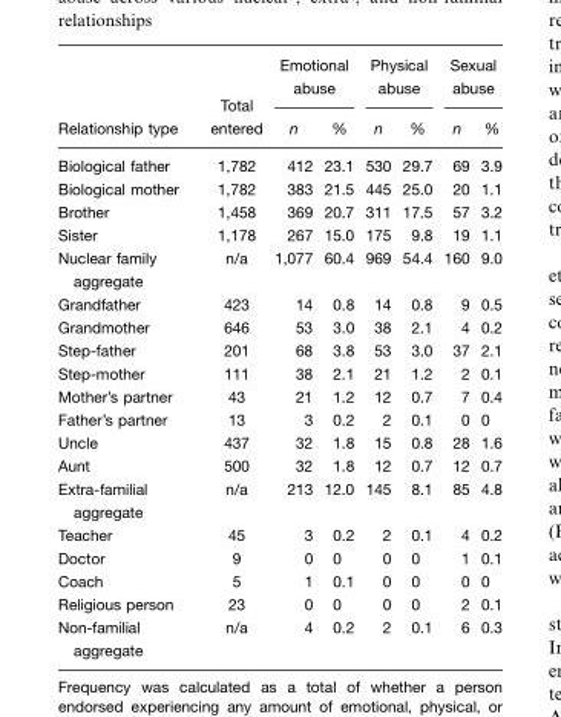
<table><thead><tr><td rowspan="2">Relationship type</td><td rowspan="2">Total entered</td><td colspan="2">Emotional abuse</td><td colspan="2">Physical abuse</td><td colspan="2">Sexual abuse</td></tr><tr><td>n</td><td>%</td><td>n</td><td>%</td><td>n</td><td>%</td></tr></thead><tbody><tr><td>Biological father</td><td>1,782</td><td>412</td><td>23.1</td><td>530</td><td>29.7</td><td>69</td><td>3.9</td></tr><tr><td>Biological mother</td><td>1,782</td><td>383</td><td>21.5</td><td>445</td><td>25.0</td><td>20</td><td>1.1</td></tr><tr><td>Brother</td><td>1,458</td><td>369</td><td>20.7</td><td>311</td><td>17.5</td><td>57</td><td>3.2</td></tr><tr><td>Sister</td><td>1,178</td><td>267</td><td>15.0</td><td>175</td><td>9.8</td><td>19</td><td>1.1</td></tr><tr><td>Nuclear family aggregate</td><td>n/a</td><td>1,077</td><td>60.4</td><td>969</td><td>54.4</td><td>160</td><td>9.0</td></tr><tr><td>Grandfather</td><td>423</td><td>14</td><td>0.8</td><td>14</td><td>0.8</td><td>9</td><td>0.5</td></tr><tr><td>Grandmother</td><td>646</td><td>53</td><td>3.0</td><td>38</td><td>2.1</td><td>4</td><td>0.2</td></tr><tr><td>Step-father</td><td>201</td><td>68</td><td>3.8</td><td>53</td><td>3.0</td><td>37</td><td>2.1</td></tr><tr><td>Step-mother</td><td>111</td><td>38</td><td>2.1</td><td>21</td><td>1.2</td><td>2</td><td>0.1</td></tr><tr><td>Mother’s partner</td><td>43</td><td>21</td><td>1.2</td><td>12</td><td>0.7</td><td>7</td><td>0.4</td></tr><tr><td>Father’s partner</td><td>13</td><td>3</td><td>0.2</td><td>2</td><td>0.1</td><td>0</td><td>0</td></tr><tr><td>Uncle</td><td>437</td><td>32</td><td>1.8</td><td>15</td><td>0.8</td><td>28</td><td>1.6</td></tr><tr><td>Aunt</td><td>500</td><td>32</td><td>1.8</td><td>12</td><td>0.7</td><td>12</td><td>0.7</td></tr><tr><td>Extra-familial aggregate</td><td>n/a</td><td>213</td><td>12.0</td><td>145</td><td>8.1</td><td>85</td><td>4.8</td></tr><tr><td>Teacher</td><td>45</td><td>3</td><td>0.2</td><td>2</td><td>0.1</td><td>4</td><td>0.2</td></tr><tr><td>Doctor</td><td>9</td><td>0</td><td>0</td><td>0</td><td>0</td><td>1</td><td>0.1</td></tr><tr><td>Coach</td><td>5</td><td>1</td><td>0.1</td><td>0</td><td>0</td><td>0</td><td>0</td></tr><tr><td>Religious person</td><td>23</td><td>0</td><td>0</td><td>0</td><td>0</td><td>2</td><td>0.1</td></tr><tr><td>Non-familial aggregate</td><td>n/a</td><td>4</td><td>0.2</td><td>2</td><td>0.1</td><td>6</td><td>0.3</td></tr></tbody></table>